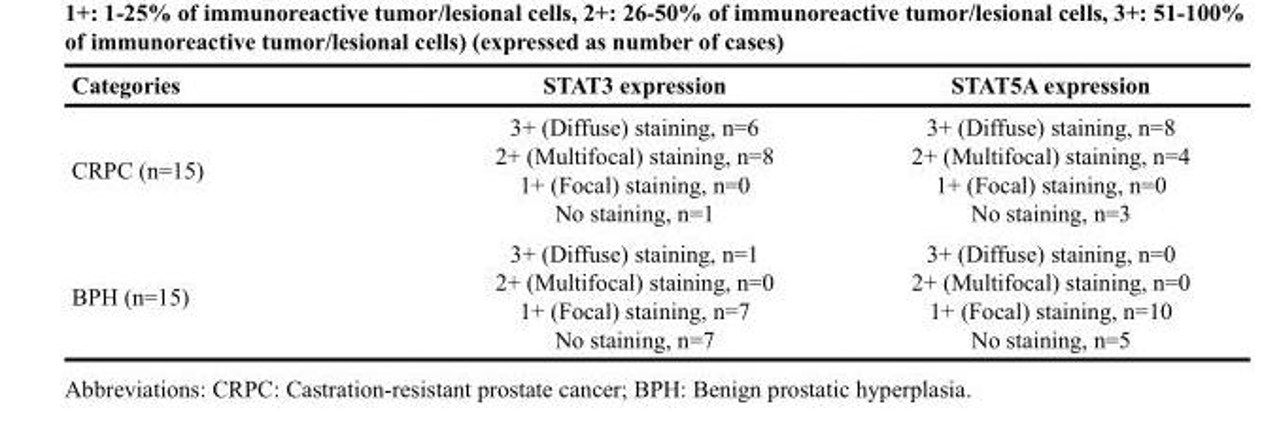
<table><thead><tr><td>Categories</td><td>STAT3 expression</td><td>STAT5A expression</td></tr></thead><tbody><tr><td>CRPC (n=15)</td><td>3+ (Diffuse) staining, n=6 2+ (Multifocal) staining, n=8 1+ (Focal) staining, n=0 No staining, n=1</td><td>3+ (Diffuse) staining, n=8 2+ (Multifocal) staining, n=4 1+ (Focal) staining, n=0 No staining, n=3</td></tr><tr><td>BPH (n=15)</td><td>3+ (Diffuse) staining, n=1 2+ (Multifocal) staining, n=0 1+ (Focal) staining, n=7 No staining, n=7</td><td>3+ (Diffuse) staining, n=0 2+ (Multifocal) staining, n=0 1+ (Focal) staining, n=10 No staining, n=5</td></tr></tbody></table>